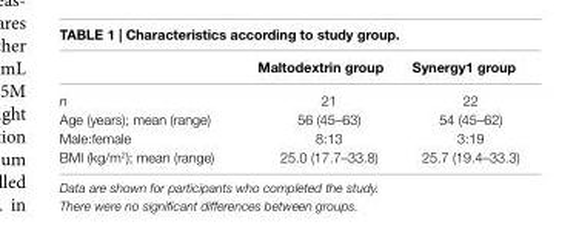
<table><thead><tr><td></td><td>Maltodextrin group</td><td>synergy1 group</td></tr></thead><tbody><tr><td>n</td><td>21</td><td>22</td></tr><tr><td>Age (years); mean (range)</td><td>56 (45–63)</td><td>54 (45–62)</td></tr><tr><td>Male:female</td><td>8:13</td><td>3:19</td></tr><tr><td>BMI (kg/m<sup>2</sup>); mean (range)</td><td>25.0 (17.7–33.8)</td><td>25.7 (19.4–33.3)</td></tr></tbody></table>